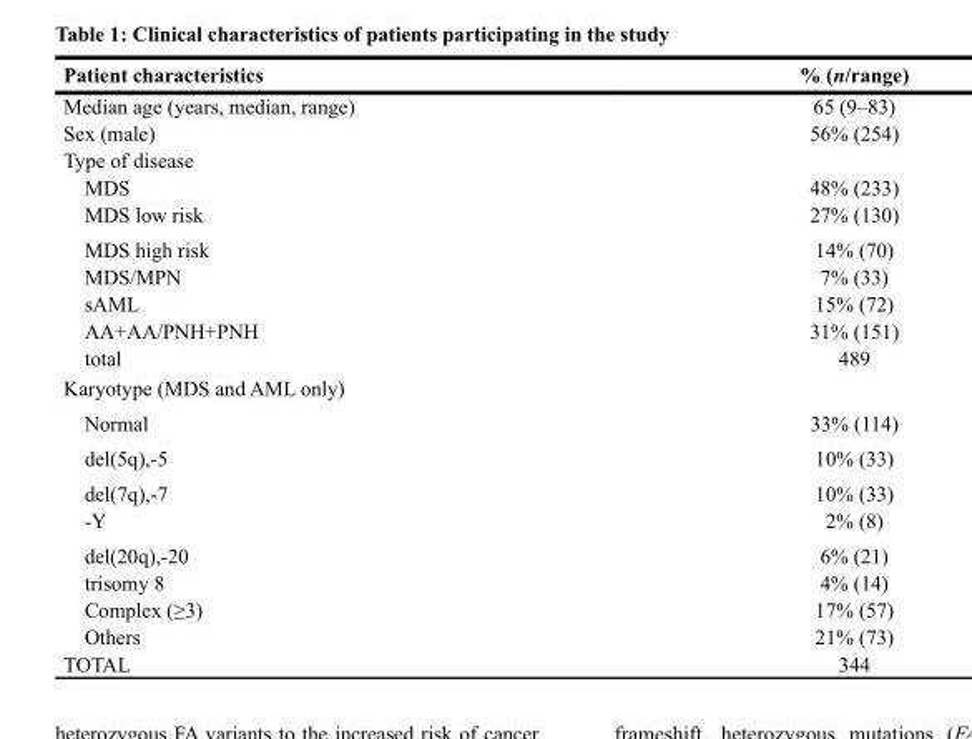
<table><thead><tr><td>Patient characteristics</td><td>% (n/range)</td></tr></thead><tbody><tr><td>Median age (years, median, range)</td><td>65 (9–83)</td></tr><tr><td>Sex (male)</td><td>56% (254)</td></tr><tr><td colspan="2">Type of disease</td></tr><tr><td>MDS</td><td>48% (233)</td></tr><tr><td>MDS low risk</td><td>27% (130)</td></tr><tr><td>MDS high risk</td><td>14% (70)</td></tr><tr><td>MDS/MPN</td><td>7% (33)</td></tr><tr><td>sAML</td><td>15% (72)</td></tr><tr><td>AA+AA/PNH+PNH</td><td>31% (151)</td></tr><tr><td>total</td><td>489</td></tr><tr><td colspan="2">Karyotype (MDS and AML only)</td></tr><tr><td>Normal</td><td>33% (114)</td></tr><tr><td>del(5q),-5</td><td>10% (33)</td></tr><tr><td>del(7q),-7</td><td>10% (33)</td></tr><tr><td>-Y</td><td>2% (8)</td></tr><tr><td>del(20q),-20</td><td>6% (21)</td></tr><tr><td>trisomy 8</td><td>4% (14)</td></tr><tr><td>Complex (≥3)</td><td>17% (57)</td></tr><tr><td>Others</td><td>21% (73)</td></tr><tr><td>TOTAL</td><td>344</td></tr></tbody></table>